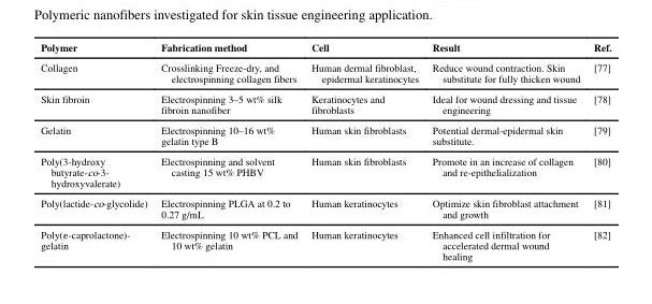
<table><thead><tr><td>Polymer</td><td>Fabrication method</td><td>Cell</td><td>Result</td><td>Ref.</td></tr></thead><tbody><tr><td>Collagen</td><td>Crosslinking Freeze-dry, and electrospinning collagen fibers</td><td>Human dermal fibroblast, epidermal keratinocytes</td><td>Reduce wound contraction. Skin substitute for fully thicken wound</td><td>[77]</td></tr><tr><td>Skin fibroin</td><td>Electrospinning 3–5 wt% silk fibroin nanofiber</td><td>Keratinocytes and fibroblasts</td><td>Ideal for wound dressing and tissue engineering</td><td>[78]</td></tr><tr><td>Gelatin</td><td>Electrospinning 10–16 wt% gelatin type B</td><td>Human skin fibroblasts</td><td>Potential dermal-epidermal skin substitute.</td><td>[79]</td></tr><tr><td>Poly(3-hydroxy butyrate-co-3- hydroxyvalerate)</td><td>Electrospinning and solvent casting 15 wt% PHBV</td><td>Human skin fibroblasts</td><td>Promote in an increase of collagen and re-epithelialization</td><td>[80]</td></tr><tr><td>Poly(lactide-co-glycolide)</td><td>Electrospinning PLGA at 0.2 to 0.27 g/mL</td><td>Human keratinocytes</td><td>Optimize skin fibroblast attachment and growth</td><td>[81]</td></tr><tr><td>Poly(ε-caprolactone)- gelatin</td><td>Electrospinning 10 wt% PCL and 10 wt% gelatin</td><td>Human keratinocytes</td><td>Enhanced cell infiltration for accelerated dermal wound healing</td><td>[82]</td></tr></tbody></table>